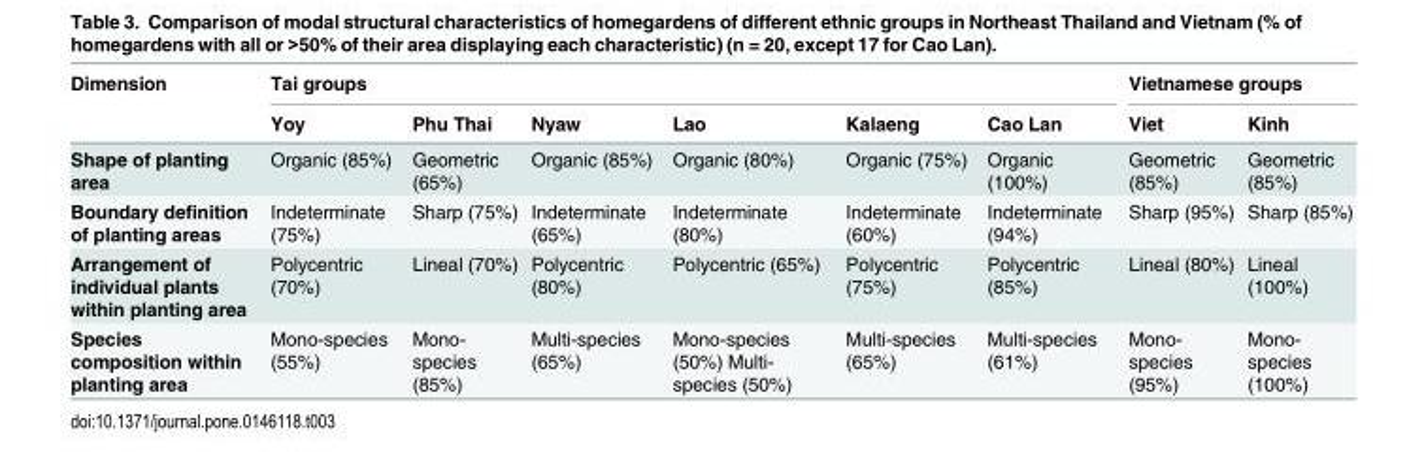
<table><thead><tr><td rowspan="2">Dimension</td><td colspan="6">Tai groups</td><td colspan="2">Vietnamese groups</td></tr><tr><td>Yoy</td><td>Phu Thai</td><td>Nyaw</td><td>Lao</td><td>Kalaeng</td><td>Cao Lan</td><td>Viet</td><td>Kinh</td></tr></thead><tbody><tr><td>Shape of planting area</td><td>Organic (85%)</td><td>Geometric (65%)</td><td>Organic (85%)</td><td>Organic (80%)</td><td>Organic (75%)</td><td>Organic (100%)</td><td>Geometric (85%)</td><td>Geometric (85%)</td></tr><tr><td>Boundary definition of planting areas</td><td>Indeterminate (75%)</td><td>Sharp (75%)</td><td>Indeterminate (65%)</td><td>Indeterminate (80%)</td><td>Indeterminate (60%)</td><td>Indeterminate (94%)</td><td>Sharp (95%)</td><td>Sharp (85%)</td></tr><tr><td>Arrangement of individual plants within planting area</td><td>Polycentric (70%)</td><td>Lineal (70%)</td><td>Polycentric (80%)</td><td>Polycentric (65%)</td><td>Polycentric (75%)</td><td>Polycentric (85%)</td><td>Lineal (80%)</td><td>Lineal (100%)</td></tr><tr><td>Species composition within planting area</td><td>Mono-species (55%)</td><td>Mono- species (85%)</td><td>Multi-species (65%)</td><td>Mono-species (50%) Multi- species (50%)</td><td>Multi-species (65%)</td><td>Multi-species (61%)</td><td>Mono- species (95%)</td><td>Mono- species (100%)</td></tr></tbody></table>